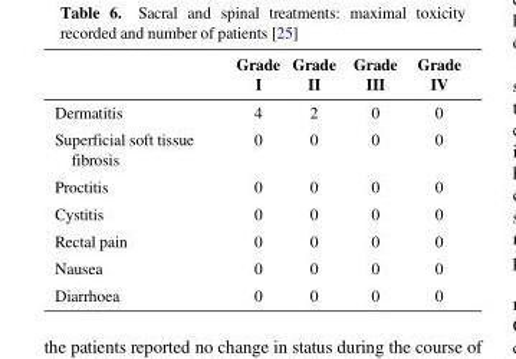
<table><thead><tr><td></td><td>Grade I</td><td>Grade II</td><td>Grade III</td><td>Grade IV</td></tr></thead><tbody><tr><td>Dermatitis</td><td>4</td><td>2</td><td>0</td><td>0</td></tr><tr><td>Superficial soft tissue fibrosis</td><td>0</td><td>0</td><td>0</td><td>0</td></tr><tr><td>Proctitis</td><td>0</td><td>0</td><td>0</td><td>0</td></tr><tr><td>Cystitis</td><td>0</td><td>0</td><td>0</td><td>0</td></tr><tr><td>Rectal pain</td><td>0</td><td>0</td><td>0</td><td>0</td></tr><tr><td>Nausea</td><td>0</td><td>0</td><td>0</td><td>0</td></tr><tr><td>Diarrhoea</td><td>0</td><td>0</td><td>0</td><td>0</td></tr></tbody></table>